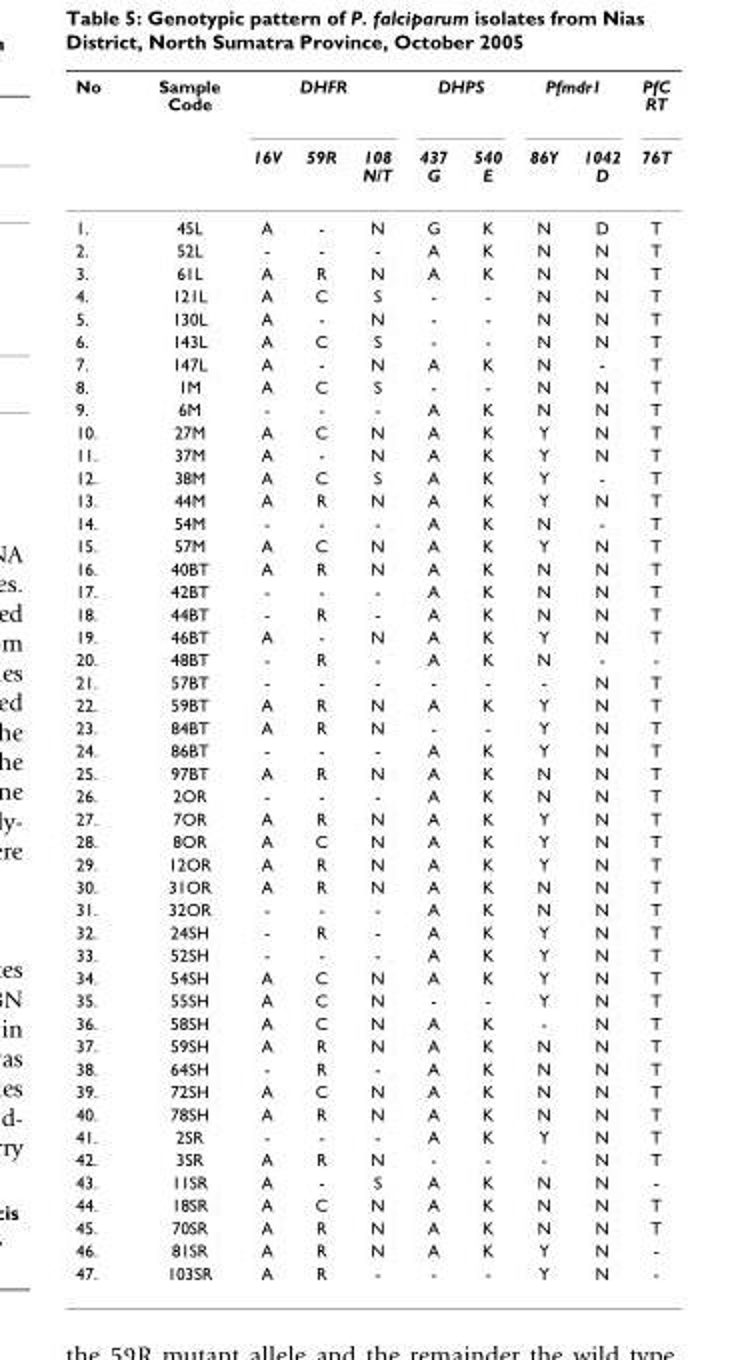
<table><thead><tr><td rowspan="2">No</td><td rowspan="2">Sample Code</td><td colspan="3">DHFR</td><td colspan="2">DHPS</td><td colspan="2">Pfmdr1</td><td rowspan="2">PfC RT 76T</td></tr><tr><td>16V</td><td>59R</td><td>108 N/T</td><td>437 G</td><td>540 E</td><td>86Y</td><td>1042 D</td></tr></thead><tbody><tr><td>1.</td><td>45L</td><td>A</td><td>-</td><td>N</td><td>G</td><td>K</td><td>N</td><td>D</td><td>T</td></tr><tr><td>2.</td><td>52L</td><td>-</td><td>-</td><td>-</td><td>A</td><td>K</td><td>N</td><td>N</td><td>T</td></tr><tr><td>3.</td><td>61L</td><td>A</td><td>R</td><td>N</td><td>A</td><td>K</td><td>N</td><td>N</td><td>T</td></tr><tr><td>4.</td><td>121L</td><td>A</td><td>C</td><td>S</td><td>-</td><td>-</td><td>N</td><td>N</td><td>T</td></tr><tr><td>5.</td><td>130L</td><td>A</td><td>-</td><td>N</td><td>-</td><td>-</td><td>N</td><td>N</td><td>T</td></tr><tr><td>6.</td><td>143L</td><td>A</td><td>C</td><td>S</td><td>-</td><td>-</td><td>N</td><td>N</td><td>T</td></tr><tr><td>7.</td><td>147L</td><td>A</td><td>-</td><td>N</td><td>A</td><td>K</td><td>N</td><td>-</td><td>T</td></tr><tr><td>8.</td><td>1M</td><td>A</td><td>C</td><td>S</td><td>-</td><td>-</td><td>N</td><td>N</td><td>T</td></tr><tr><td>9.</td><td>6M</td><td>-</td><td>-</td><td>-</td><td>A</td><td>K</td><td>N</td><td>N</td><td>T</td></tr><tr><td>10.</td><td>27M</td><td>A</td><td>C</td><td>N</td><td>A</td><td>K</td><td>Y</td><td>N</td><td>T</td></tr><tr><td>11.</td><td>37M</td><td>A</td><td>-</td><td>N</td><td>A</td><td>K</td><td>Y</td><td>N</td><td>T</td></tr><tr><td>12.</td><td>38M</td><td>A</td><td>C</td><td>S</td><td>A</td><td>K</td><td>Y</td><td>-</td><td>T</td></tr><tr><td>13.</td><td>44M</td><td>A</td><td>R</td><td>N</td><td>A</td><td>K</td><td>Y</td><td>N</td><td>T</td></tr><tr><td>14.</td><td>54M</td><td>-</td><td>-</td><td>-</td><td>A</td><td>K</td><td>N</td><td>-</td><td>T</td></tr><tr><td>15.</td><td>57M</td><td>A</td><td>C</td><td>N</td><td>A</td><td>K</td><td>Y</td><td>N</td><td>T</td></tr><tr><td>16.</td><td>40BT</td><td>A</td><td>R</td><td>N</td><td>A</td><td>K</td><td>N</td><td>N</td><td>T</td></tr><tr><td>17.</td><td>42BT</td><td>-</td><td>-</td><td>-</td><td>A</td><td>K</td><td>N</td><td>N</td><td>T</td></tr><tr><td>18.</td><td>44BT</td><td>-</td><td>R</td><td>-</td><td>A</td><td>K</td><td>N</td><td>N</td><td>T</td></tr><tr><td>19.</td><td>46BT</td><td>A</td><td>-</td><td>N</td><td>A</td><td>K</td><td>Y</td><td>N</td><td>T</td></tr><tr><td>20.</td><td>48BT</td><td>-</td><td>R</td><td>-</td><td>A</td><td>K</td><td>N</td><td>-</td><td>-</td></tr><tr><td>21.</td><td>57BT</td><td>-</td><td>-</td><td>-</td><td>-</td><td>-</td><td>-</td><td>N</td><td>T</td></tr><tr><td>22.</td><td>59BT</td><td>A</td><td>R</td><td>N</td><td>A</td><td>K</td><td>Y</td><td>N</td><td>T</td></tr><tr><td>23.</td><td>84BT</td><td>A</td><td>R</td><td>N</td><td>-</td><td>-</td><td>Y</td><td>N</td><td>T</td></tr><tr><td>24.</td><td>86BT</td><td>-</td><td>-</td><td>-</td><td>A</td><td>K</td><td>Y</td><td>N</td><td>T</td></tr><tr><td>25.</td><td>97BT</td><td>A</td><td>R</td><td>N</td><td>A</td><td>K</td><td>N</td><td>N</td><td>T</td></tr><tr><td>26.</td><td>2OR</td><td>-</td><td>-</td><td>-</td><td>A</td><td>K</td><td>N</td><td>N</td><td>T</td></tr><tr><td>27.</td><td>7OR</td><td>A</td><td>R</td><td>N</td><td>A</td><td>K</td><td>Y</td><td>N</td><td>T</td></tr><tr><td>28.</td><td>8OR</td><td>A</td><td>C</td><td>N</td><td>A</td><td>K</td><td>Y</td><td>N</td><td>T</td></tr><tr><td>29.</td><td>12OR</td><td>A</td><td>R</td><td>N</td><td>A</td><td>K</td><td>Y</td><td>N</td><td>T</td></tr><tr><td>30.</td><td>31OR</td><td>A</td><td>R</td><td>N</td><td>A</td><td>K</td><td>N</td><td>N</td><td>T</td></tr><tr><td>31.</td><td>32OR</td><td>-</td><td>-</td><td>-</td><td>A</td><td>K</td><td>N</td><td>N</td><td>T</td></tr><tr><td>32.</td><td>24SH</td><td>-</td><td>R</td><td>-</td><td>A</td><td>K</td><td>Y</td><td>N</td><td>T</td></tr><tr><td>33.</td><td>52SH</td><td>-</td><td>-</td><td>-</td><td>A</td><td>K</td><td>Y</td><td>N</td><td>T</td></tr><tr><td>34.</td><td>54SH</td><td>A</td><td>C</td><td>N</td><td>A</td><td>K</td><td>Y</td><td>N</td><td>T</td></tr><tr><td>35.</td><td>55SH</td><td>A</td><td>C</td><td>N</td><td>-</td><td>-</td><td>Y</td><td>N</td><td>T</td></tr><tr><td>36.</td><td>58SH</td><td>A</td><td>C</td><td>N</td><td>A</td><td>K</td><td>-</td><td>N</td><td>T</td></tr><tr><td>37.</td><td>59SH</td><td>A</td><td>R</td><td>N</td><td>A</td><td>K</td><td>N</td><td>N</td><td>T</td></tr><tr><td>38.</td><td>64SH</td><td>-</td><td>R</td><td>-</td><td>A</td><td>K</td><td>N</td><td>N</td><td>T</td></tr><tr><td>39.</td><td>72SH</td><td>A</td><td>C</td><td>N</td><td>A</td><td>K</td><td>N</td><td>N</td><td>T</td></tr><tr><td>40.</td><td>78SH</td><td>A</td><td>R</td><td>N</td><td>A</td><td>K</td><td>N</td><td>N</td><td>T</td></tr><tr><td>41.</td><td>2SR</td><td>-</td><td>-</td><td>-</td><td>A</td><td>K</td><td>Y</td><td>N</td><td>T</td></tr><tr><td>42.</td><td>3SR</td><td>A</td><td>R</td><td>N</td><td>-</td><td>-</td><td>-</td><td>N</td><td>T</td></tr><tr><td>43.</td><td>11SR</td><td>A</td><td>-</td><td>S</td><td>A</td><td>K</td><td>N</td><td>N</td><td>-</td></tr><tr><td>44.</td><td>18SR</td><td>A</td><td>C</td><td>N</td><td>A</td><td>K</td><td>N</td><td>N</td><td>T</td></tr><tr><td>45.</td><td>70SR</td><td>A</td><td>R</td><td>N</td><td>A</td><td>K</td><td>N</td><td>N</td><td>T</td></tr><tr><td>46.</td><td>81SR</td><td>A</td><td>R</td><td>N</td><td>A</td><td>K</td><td>Y</td><td>N</td><td>-</td></tr><tr><td>47.</td><td>103SR</td><td>A</td><td>R</td><td>-</td><td>-</td><td>-</td><td>Y</td><td>N</td><td>-</td></tr></tbody></table>